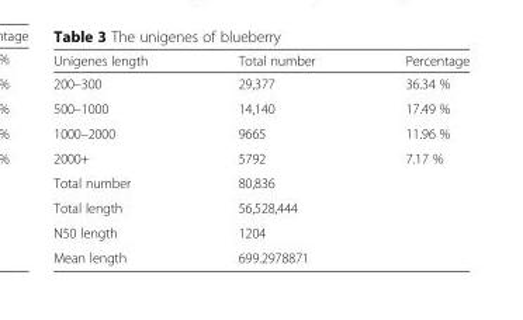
<table><thead><tr><td>Unigenes length</td><td>Total number</td><td>Percentage</td></tr></thead><tbody><tr><td>200–300</td><td>29,377</td><td>36.34 %</td></tr><tr><td>500–1000</td><td>14,140</td><td>17.49 %</td></tr><tr><td>1000–2000</td><td>9665</td><td>11.96 %</td></tr><tr><td>2000+</td><td>5792</td><td>7.17 %</td></tr><tr><td>Total number</td><td colspan="2">80,836</td></tr><tr><td>Total length</td><td colspan="2">56,528,444</td></tr><tr><td>N50 length</td><td colspan="2">1204</td></tr><tr><td>Mean length</td><td colspan="2">699.2978871</td></tr></tbody></table>